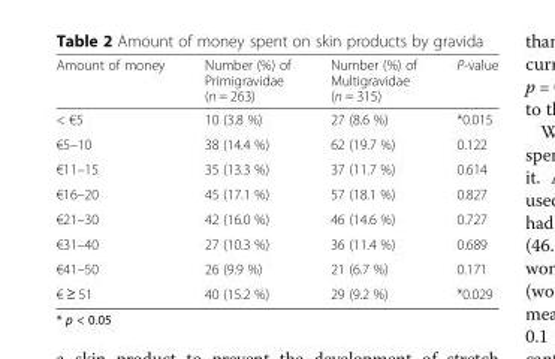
<table><thead><tr><td>Amount of money</td><td>Number (%) of Primigravidae (n = 263)</td><td>Number (%) of Multigravidae (n = 315)</td><td>P-value</td></tr></thead><tbody><tr><td>&lt; €5</td><td>10 (3.8 %)</td><td>27 (8.6 %)</td><td>*0.015</td></tr><tr><td>€5–10</td><td>38 (14.4 %)</td><td>62 (19.7 %)</td><td>0.122</td></tr><tr><td>€11–15</td><td>35 (13.3 %)</td><td>37 (11.7 %)</td><td>0.614</td></tr><tr><td>€16–20</td><td>45 (17.1 %)</td><td>57 (18.1 %)</td><td>0.827</td></tr><tr><td>€21–30</td><td>42 (16.0 %)</td><td>46 (14.6 %)</td><td>0.727</td></tr><tr><td>€31–40</td><td>27 (10.3 %)</td><td>36 (11.4 %)</td><td>0.689</td></tr><tr><td>€41–50</td><td>26 (9.9 %)</td><td>21 (6.7 %)</td><td>0.171</td></tr><tr><td>€ ≥ 51</td><td>40 (15.2 %)</td><td>29 (9.2 %)</td><td>*0.029</td></tr></tbody></table>